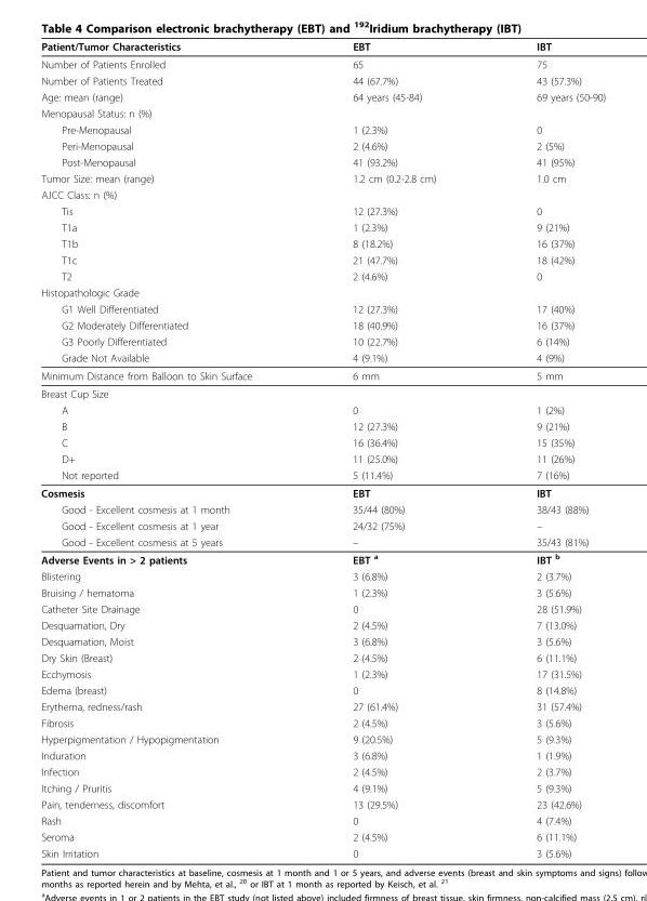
<table><thead><tr><td>Patient/Tumor Characteristics</td><td>EBT</td><td>IBT</td></tr></thead><tbody><tr><td>Number of Patients Enrolled</td><td>65</td><td>75</td></tr><tr><td>Number of Patients Treated</td><td>44 (67.7%)</td><td>43 (57.3%)</td></tr><tr><td>Age: mean (range)</td><td>64 years (45-84)</td><td>69 years (50-90)</td></tr><tr><td colspan="3">Menopausal Status: n (%)</td></tr><tr><td>Pre-Menopausal</td><td>1 (2.3%)</td><td>0</td></tr><tr><td>Peri-Menopausal</td><td>2 (4.6%)</td><td>2 (5%)</td></tr><tr><td>Post-Menopausal</td><td>41 (93.2%)</td><td>41 (95%)</td></tr><tr><td>Tumor Size: mean (range)</td><td>1.2 cm (0.2-2.8 cm)</td><td>1.0 cm</td></tr><tr><td colspan="3">AJCC Class: n (%)</td></tr><tr><td>Tis</td><td>12 (27.3%)</td><td>0</td></tr><tr><td>T1a</td><td>1 (2.3%)</td><td>9 (21%)</td></tr><tr><td>T1b</td><td>8 (18.2%)</td><td>16 (37%)</td></tr><tr><td>T1c</td><td>21 (47.7%)</td><td>18 (42%)</td></tr><tr><td>T2</td><td>2 (4.6%)</td><td>0</td></tr><tr><td colspan="3">Histopathologic Grade</td></tr><tr><td>G1 Well Differentiated</td><td>12 (27.3%)</td><td>17 (40%)</td></tr><tr><td>G2 Moderately Differentiated</td><td>18 (40.9%)</td><td>16 (37%)</td></tr><tr><td>G3 Poorly Differentiated</td><td>10 (22.7%)</td><td>6 (14%)</td></tr><tr><td>Grade Not Available</td><td>4 (9.1%)</td><td>4 (9%)</td></tr><tr><td>Minimum Distance from Balloon to Skin Surface</td><td>6 mm</td><td>5 mm</td></tr><tr><td colspan="3">Breast Cup Size</td></tr><tr><td>A</td><td>0</td><td>1 (2%)</td></tr><tr><td>B</td><td>12 (27.3%)</td><td>9 (21%)</td></tr><tr><td>C</td><td>16 (36.4%)</td><td>15 (35%)</td></tr><tr><td>D+</td><td>11 (25.0%)</td><td>11 (26%)</td></tr><tr><td>Not reported</td><td>5 (11.4%)</td><td>7 (16%)</td></tr><tr><td>Cosmesis</td><td>EBT</td><td>IBT</td></tr><tr><td>Good - Excellent cosmesis at 1 month</td><td>35/44 (80%)</td><td>38/43 (88%)</td></tr><tr><td>Good - Excellent cosmesis at 1 year</td><td>24/32 (75%)</td><td>–</td></tr><tr><td>Good - Excellent cosmesis at 5 years</td><td>–</td><td>35/43 (81%)</td></tr><tr><td>Adverse Events in &gt; 2 patients</td><td>EBT <sup>a</sup></td><td>IBT <sup>b</sup></td></tr><tr><td>Blistering</td><td>3 (6.8%)</td><td>2 (3.7%)</td></tr><tr><td>Bruising / hematoma</td><td>1 (2.3%)</td><td>3 (5.6%)</td></tr><tr><td>Catheter Site Drainage</td><td>0</td><td>28 (51.9%)</td></tr><tr><td>Desquamation, Dry</td><td>2 (4.5%)</td><td>7 (13.0%)</td></tr><tr><td>Desquamation, Moist</td><td>3 (6.8%)</td><td>3 (5.6%)</td></tr><tr><td>Dry Skin (Breast)</td><td>2 (4.5%)</td><td>6 (11.1%)</td></tr><tr><td>Ecchymosis</td><td>1 (2.3%)</td><td>17 (31.5%)</td></tr><tr><td>Edema (breast)</td><td>0</td><td>8 (14.8%)</td></tr><tr><td>Erythema, redness/rash</td><td>27 (61.4%)</td><td>31 (57.4%)</td></tr><tr><td>Fibrosis</td><td>2 (4.5%)</td><td>3 (5.6%)</td></tr><tr><td>Hyperpigmentation / Hypopigmentation</td><td>9 (20.5%)</td><td>5 (9.3%)</td></tr><tr><td>Induration</td><td>3 (6.8%)</td><td>1 (1.9%)</td></tr><tr><td>Infection</td><td>2 (4.5%)</td><td>2 (3.7%)</td></tr><tr><td>Itching / Pruritis</td><td>4 (9.1%)</td><td>5 (9.3%)</td></tr><tr><td>Pain, tenderness, discomfort</td><td>13 (29.5%)</td><td>23 (42.6%)</td></tr><tr><td>Rash</td><td>0</td><td>4 (7.4%)</td></tr><tr><td>Seroma</td><td>2 (4.5%)</td><td>6 (11.1%)</td></tr><tr><td>Skin Irritation</td><td>0</td><td>3 (5.6%)</td></tr></tbody></table>